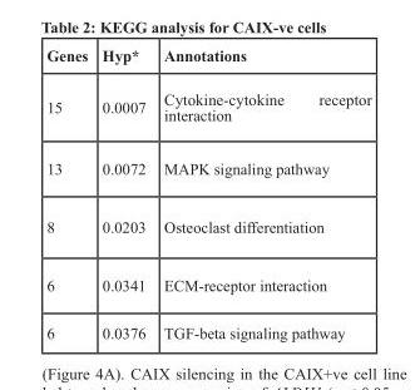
<table><thead><tr><td>Genes</td><td>Hyp*</td><td>Annotations</td></tr></thead><tbody><tr><td>15</td><td>0.0007</td><td>Cytokine-cytokine receptor interaction</td></tr><tr><td>13</td><td>0.0072</td><td>MAPK signaling pathway</td></tr><tr><td>8</td><td>0.0203</td><td>Osteoclast differentiation</td></tr><tr><td>6</td><td>0.0341</td><td>ECM-receptor interaction</td></tr><tr><td>6</td><td>0.0376</td><td>TGF-beta signaling pathway</td></tr></tbody></table>